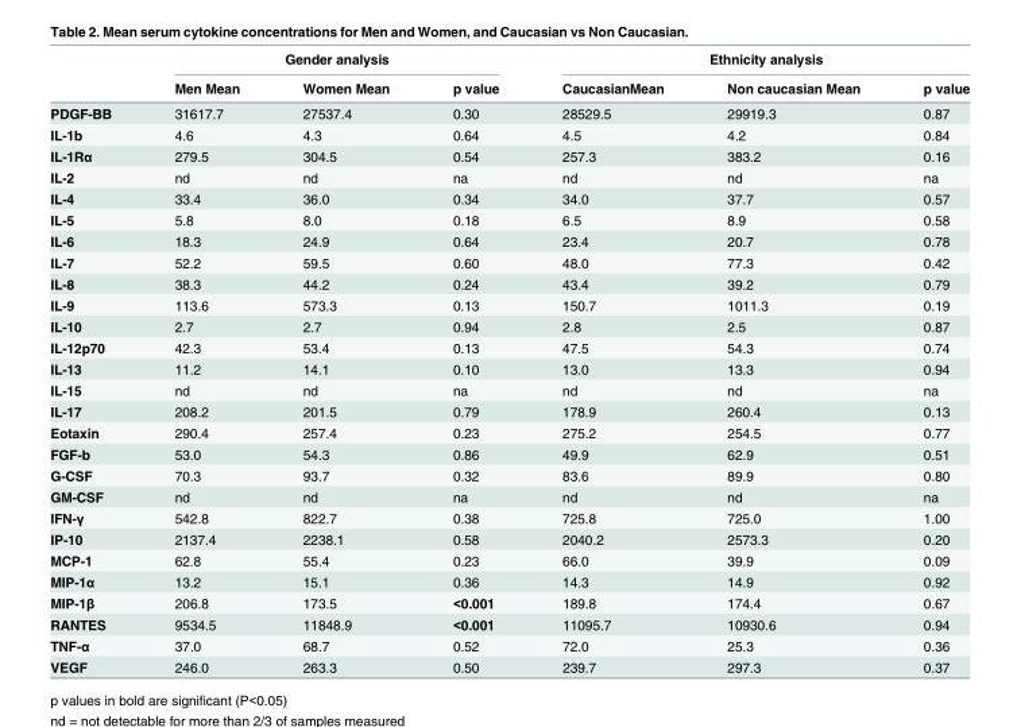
<table><thead><tr><td rowspan="2"></td><td colspan="3">Gender analysis</td><td colspan="3">Ethnicity analysis</td></tr><tr><td>Men Mean</td><td>Women Mean</td><td>p value</td><td>CaucasianMean</td><td>Non caucasian Mean</td><td>p value</td></tr></thead><tbody><tr><td>PDGF-BB</td><td>31617.7</td><td>27537.4</td><td>0.30</td><td>28529.5</td><td>29919.3</td><td>0.87</td></tr><tr><td>IL-1b</td><td>4.6</td><td>4.3</td><td>0.64</td><td>4.5</td><td>4.2</td><td>0.84</td></tr><tr><td>IL-1Rα</td><td>279.5</td><td>304.5</td><td>0.54</td><td>257.3</td><td>383.2</td><td>0.16</td></tr><tr><td>IL-2</td><td>nd</td><td>nd</td><td>na</td><td>nd</td><td>nd</td><td>na</td></tr><tr><td>IL-4</td><td>33.4</td><td>36.0</td><td>0.34</td><td>34.0</td><td>37.7</td><td>0.57</td></tr><tr><td>IL-5</td><td>5.8</td><td>8.0</td><td>0.18</td><td>6.5</td><td>8.9</td><td>0.58</td></tr><tr><td>IL-6</td><td>18.3</td><td>24.9</td><td>0.64</td><td>23.4</td><td>20.7</td><td>0.78</td></tr><tr><td>IL-7</td><td>52.2</td><td>59.5</td><td>0.60</td><td>48.0</td><td>77.3</td><td>0.42</td></tr><tr><td>IL-8</td><td>38.3</td><td>44.2</td><td>0.24</td><td>43.4</td><td>39.2</td><td>0.79</td></tr><tr><td>IL-9</td><td>113.6</td><td>573.3</td><td>0.13</td><td>150.7</td><td>1011.3</td><td>0.19</td></tr><tr><td>IL-10</td><td>2.7</td><td>2.7</td><td>0.94</td><td>2.8</td><td>2.5</td><td>0.87</td></tr><tr><td>IL-12p70</td><td>42.3</td><td>53.4</td><td>0.13</td><td>47.5</td><td>54.3</td><td>0.74</td></tr><tr><td>IL-13</td><td>11.2</td><td>14.1</td><td>0.10</td><td>13.0</td><td>13.3</td><td>0.94</td></tr><tr><td>IL-15</td><td>nd</td><td>nd</td><td>na</td><td>nd</td><td>nd</td><td>na</td></tr><tr><td>IL-17</td><td>208.2</td><td>201.5</td><td>0.79</td><td>178.9</td><td>260.4</td><td>0.13</td></tr><tr><td>Eotaxin</td><td>290.4</td><td>257.4</td><td>0.23</td><td>275.2</td><td>254.5</td><td>0.77</td></tr><tr><td>FGF-b</td><td>53.0</td><td>54.3</td><td>0.86</td><td>49.9</td><td>62.9</td><td>0.51</td></tr><tr><td>G-CSF</td><td>70.3</td><td>93.7</td><td>0.32</td><td>83.6</td><td>89.9</td><td>0.80</td></tr><tr><td>GM-CSF</td><td>nd</td><td>nd</td><td>na</td><td>nd</td><td>nd</td><td>na</td></tr><tr><td>IFN-γ</td><td>542.8</td><td>822.7</td><td>0.38</td><td>725.8</td><td>725.0</td><td>1.00</td></tr><tr><td>IP-10</td><td>2137.4</td><td>2238.1</td><td>0.58</td><td>2040.2</td><td>2573.3</td><td>0.20</td></tr><tr><td>MCP-1</td><td>62.8</td><td>55.4</td><td>0.23</td><td>66.0</td><td>39.9</td><td>0.09</td></tr><tr><td>MIP-1α</td><td>13.2</td><td>15.1</td><td>0.36</td><td>14.3</td><td>14.9</td><td>0.92</td></tr><tr><td>MIP-1β</td><td>206.8</td><td>173.5</td><td>&lt;0.001</td><td>189.8</td><td>174.4</td><td>0.67</td></tr><tr><td>RANTES</td><td>9534.5</td><td>11848.9</td><td>&lt;0.001</td><td>11095.7</td><td>10930.6</td><td>0.94</td></tr><tr><td>TNF-α</td><td>37.0</td><td>68.7</td><td>0.52</td><td>72.0</td><td>25.3</td><td>0.36</td></tr><tr><td>VEGF</td><td>246.0</td><td>263.3</td><td>0.50</td><td>239.7</td><td>297.3</td><td>0.37</td></tr></tbody></table>